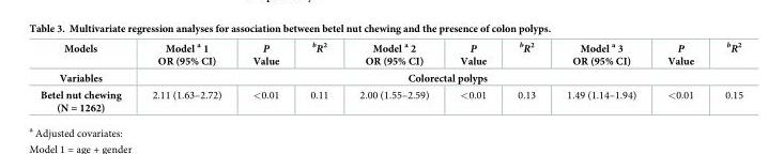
<table><thead><tr><td>Models</td><td>Model <sup>a</sup> 1 OR (95% CI)</td><td>P Value</td><td><sup>b</sup>R<sup>2</sup></td><td>Model <sup>a</sup> 2 OR (95% CI)</td><td>P Value</td><td><sup>b</sup>R<sup>2</sup></td><td>Model <sup>a</sup> 3 OR (95% CI)</td><td>P Value</td><td><sup>b</sup>R<sup>2</sup></td></tr></thead><tbody><tr><td>Variables</td><td colspan="9">Colorectal polyps</td></tr><tr><td>Betel nut chewing (N = 1262)</td><td>2.11 (1.63–2.72)</td><td>&lt;0.01</td><td>0.11</td><td>2.00 (1.55–2.59)</td><td>&lt;0.01</td><td>0.13</td><td>1.49 (1.14–1.94)</td><td>&lt;0.01</td><td>0.15</td></tr></tbody></table>